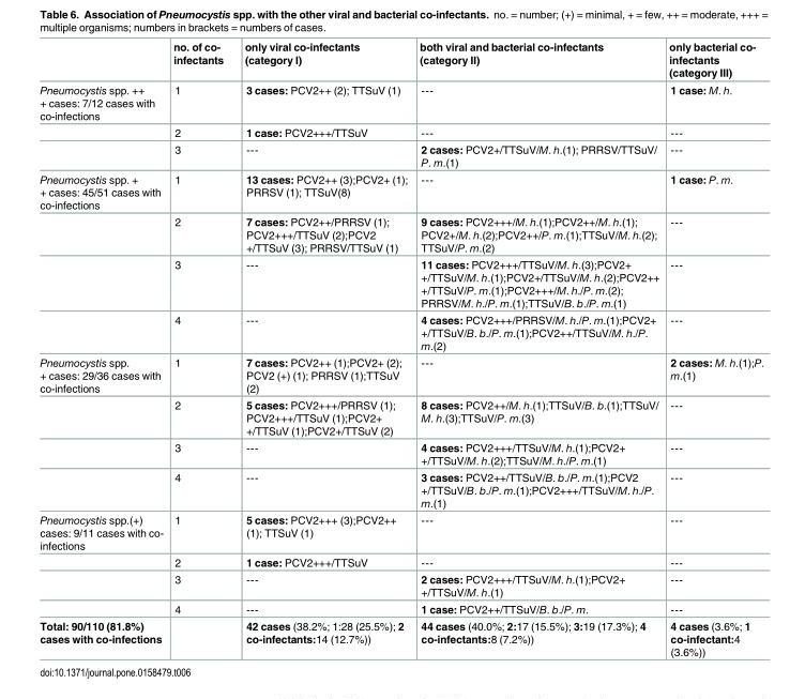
<table><thead><tr><td></td><td>no. of co- infectants</td><td>only viral co-infectants (category I)</td><td>both viral and bacterial co-infectants (category II)</td><td>only bacterial co- infectants (category III)</td></tr></thead><tbody><tr><td rowspan="3">Pneumocystis spp. ++ + cases: 7/12 cases with co-infections</td><td>1</td><td>3 cases: PCV2++ (2); TTSuV (1)</td><td>---</td><td>1 case: M. h.</td></tr><tr><td>2</td><td>1 case: PCV2+++/TTSuV</td><td>---</td><td>---</td></tr><tr><td>3</td><td>---</td><td>2 cases: PCV2+/TTSuV/M. h.(1); PRRSV/TTSuV/ P. m.(1)</td><td>---</td></tr><tr><td rowspan="4">Pneumocystis spp. + + cases: 45/51 cases with co-infections</td><td>1</td><td>13 cases: PCV2++ (3);PCV2+ (1); PRRSV (1); TTSuV(8)</td><td>---</td><td>1 case: P. m.</td></tr><tr><td>2</td><td>7 cases: PCV2++/PRRSV (1); PCV2+++/TTSuV (2);PCV2 +/TTSuV (3); PRRSV/TTSuV (1)</td><td>9 cases: PCV2+++/M. h.(1);PCV2++/M. h.(1); PCV2+/M. h.(2);PCV2++/P. m.(1);TTSuV/M. h.(2); TTSuV/P. m.(2)</td><td>---</td></tr><tr><td>3</td><td>---</td><td>11 cases: PCV2+++/TTSuV/M. h.(3);PCV2+ +/TTSuV/M. h.(1);PCV2+/TTSuV/M. h.(2);PCV2++ +/TTSuV/P. m.(1);PCV2+++/M. h./P. m.(2); PRRSV/M. h./P. m.(1);TTSuV/B. b./P. m.(1)</td><td>---</td></tr><tr><td>4</td><td>---</td><td>4 cases: PCV2+++/PRRSV/M. h./P. m.(1);PCV2+ +/TTSuV/B. b./P. m.(1);PCV2++/TTSuV/M. h./P. m.(2)</td><td>---</td></tr><tr><td rowspan="4">Pneumocystis spp. + cases: 29/36 cases with co-infections</td><td>1</td><td>7 cases: PCV2++ (1);PCV2+ (2); PCV2 (+) (1); PRRSV (1);TTSuV (2)</td><td>---</td><td>2 cases: M. h.(1);P. m.(1)</td></tr><tr><td>2</td><td>5 cases: PCV2+++/PRRSV (1); PCV2+++/TTSuV (1);PCV2+ +/TTSuV (1);PCV2+/TTSuV (2)</td><td>8 cases: PCV2++/M. h.(1);TTSuV/B. b.(1);TTSuV/ M. h.(3);TTSuV/P. m.(3)</td><td>---</td></tr><tr><td>3</td><td>---</td><td>4 cases: PCV2+++/TTSuV/M. h.(1);PCV2+ +/TTSuV/M. h.(2);TTSuV/M. h./P. m.(1)</td><td>---</td></tr><tr><td>4</td><td>---</td><td>3 cases: PCV2++/TTSuV/B. b./P. m.(1);PCV2 +/TTSuV/B. b./P. m.(1);PCV2+++/TTSuV/M. h./P. m.(1)</td><td>---</td></tr><tr><td rowspan="4">Pneumocystis spp.(+) cases: 9/11 cases with co- infections</td><td>1</td><td>5 cases: PCV2+++ (3);PCV2++ (1); TTSuV (1)</td><td>---</td><td>---</td></tr><tr><td>2</td><td>1 case: PCV2+++/TTSuV</td><td>---</td><td>---</td></tr><tr><td>3</td><td>---</td><td>2 cases: PCV2+++/TTSuV/M. h.(1);PCV2+ +/TTSuV/M. h.(1)</td><td>---</td></tr><tr><td>4</td><td>---</td><td>1 case: PCV2++/TTSuV/B. b./P. m.</td><td>---</td></tr><tr><td>Total: 90/110 (81.8%) cases with co-infections</td><td></td><td>42 cases (38.2%; 1:28 (25.5%); 2 co-infectants:14 (12.7%))</td><td>44 cases (40.0%; 2:17 (15.5%); 3:19 (17.3%); 4 co-infectants:8 (7.2%))</td><td>4 cases (3.6%; 1 co-infectant:4 (3.6%))</td></tr></tbody></table>